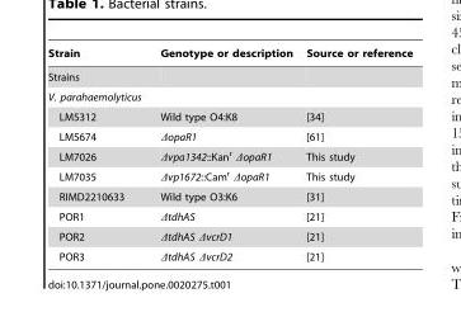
<table><thead><tr><td>Strain</td><td>Genotype or description</td><td>Source or reference</td></tr></thead><tbody><tr><td colspan="3">Strains</td></tr><tr><td colspan="3">V. parahaemolyticus</td></tr><tr><td>LM5312</td><td>Wild type O4:K8</td><td>[34]</td></tr><tr><td>LM5674</td><td>ΔopaR1</td><td>[61]</td></tr><tr><td>LM7026</td><td>Δvpa1342::Kan<sup>r</sup> ΔopaR1</td><td>This study</td></tr><tr><td>LM7035</td><td>Δvp1672::Cam<sup>r</sup> ΔopaR1</td><td>This study</td></tr><tr><td>RIMD2210633</td><td>Wild type O3:K6</td><td>[31]</td></tr><tr><td>POR1</td><td>ΔtdhAS</td><td>[21]</td></tr><tr><td>POR2</td><td>ΔtdhAS ΔvcrD1</td><td>[21]</td></tr><tr><td>POR3</td><td>ΔtdhAS ΔvcrD2</td><td>[21]</td></tr></tbody></table>